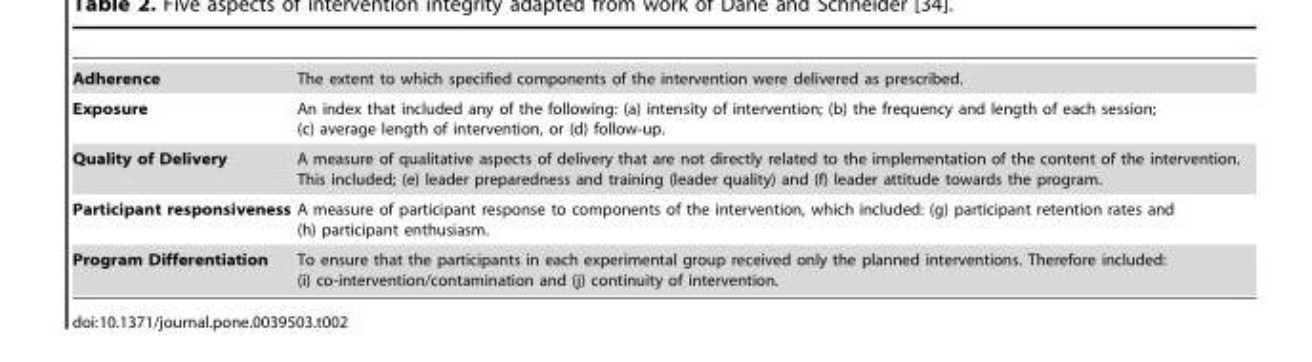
<table><tbody><tr><td>Adherence</td><td>The extent to which specified components of the intervention were delivered as prescribed.</td></tr><tr><td>Exposure</td><td>An index that included any of the following: (a) intensity of intervention; (b) the frequency and length of each session; (c) average length of intervention, or (d) follow-up.</td></tr><tr><td>Quality of Delivery</td><td>A measure of qualitative aspects of delivery that are not directly related to the implementation of the content of the intervention. This included; (e) leader preparedness and training (leader quality) and (f) leader attitude towards the program.</td></tr><tr><td>Participant responsiveness</td><td>A measure of participant response to components of the intervention, which included: (g) participant retention rates and (h) participant enthusiasm.</td></tr><tr><td>Program Differentiation</td><td>To ensure that the participants in each experimental group received only the planned interventions. Therefore included: (i) co-intervention/contamination and (j) continuity of intervention.</td></tr></tbody></table>